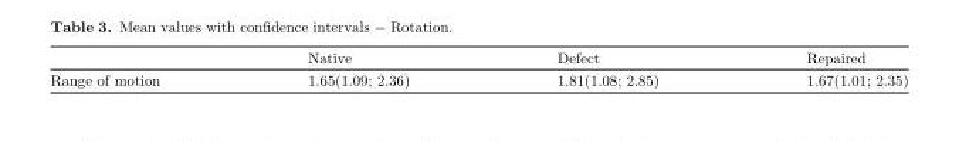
<table><thead><tr><td></td><td>Native</td><td>Defect</td><td>Repaired</td></tr></thead><tbody><tr><td>Range of motion</td><td>1.65(1.09; 2.36)</td><td>1.81(1.08; 2.85)</td><td>1.67(1.01; 2.35)</td></tr></tbody></table>